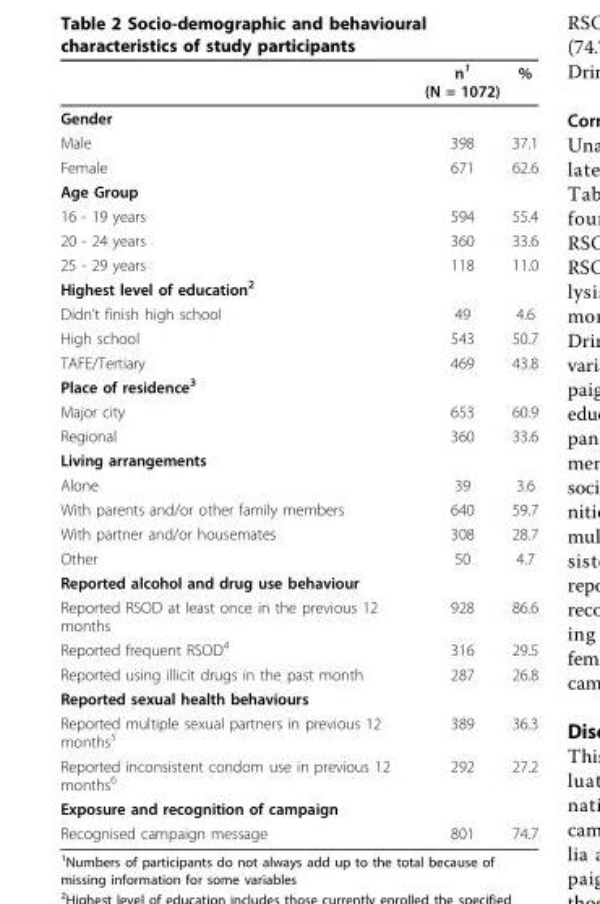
<table><thead><tr><td></td><td>n<sup>1</sup> (N = 1072)</td><td>%</td></tr></thead><tbody><tr><td colspan="3">Gender</td></tr><tr><td>Male</td><td>398</td><td>37.1</td></tr><tr><td>Female</td><td>671</td><td>62.6</td></tr><tr><td colspan="3">Age Group</td></tr><tr><td>16 - 19 years</td><td>594</td><td>55.4</td></tr><tr><td>20 - 24 years</td><td>360</td><td>33.6</td></tr><tr><td>25 - 29 years</td><td>118</td><td>11.0</td></tr><tr><td colspan="3">Highest level of education<sup>2</sup></td></tr><tr><td>Didn’t finish high school</td><td>49</td><td>4.6</td></tr><tr><td>High school</td><td>543</td><td>50.7</td></tr><tr><td>TAFE/Tertiary</td><td>469</td><td>43.8</td></tr><tr><td colspan="3">Place of residence<sup>3</sup></td></tr><tr><td>Major city</td><td>653</td><td>60.9</td></tr><tr><td>Regional</td><td>360</td><td>33.6</td></tr><tr><td colspan="3">Living arrangements</td></tr><tr><td>Alone</td><td>39</td><td>3.6</td></tr><tr><td>With parents and/or other family members</td><td>640</td><td>59.7</td></tr><tr><td>With partner and/or housemates</td><td>308</td><td>28.7</td></tr><tr><td>Other</td><td>50</td><td>4.7</td></tr><tr><td colspan="3">Reported alcohol and drug use behaviour</td></tr><tr><td>Reported RSOD at least once in the previous 12 months</td><td>928</td><td>86.6</td></tr><tr><td>Reported frequent RSOD<sup>4</sup></td><td>316</td><td>29.5</td></tr><tr><td>Reported using illicit drugs in the past month</td><td>287</td><td>26.8</td></tr><tr><td colspan="3">Reported sexual health behaviours</td></tr><tr><td>Reported multiple sexual partners in previous 12 months<sup>5</sup></td><td>389</td><td>36.3</td></tr><tr><td>Reported inconsistent condom use in previous 12 months<sup>6</sup></td><td>292</td><td>27.2</td></tr><tr><td colspan="3">Exposure and recognition of campaign</td></tr><tr><td>Recognised campaign message</td><td>801</td><td>74.7</td></tr></tbody></table>